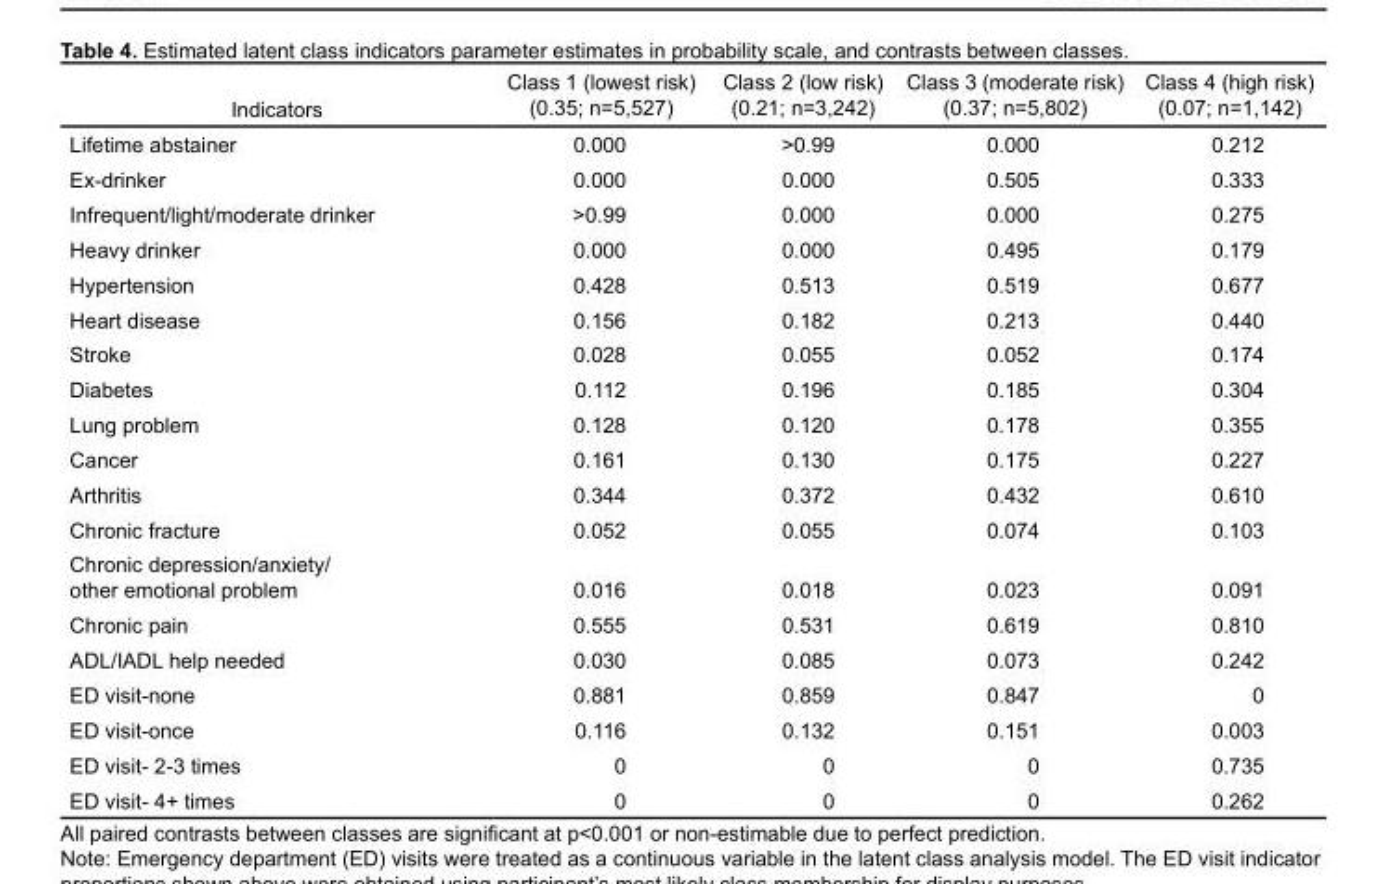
<table><thead><tr><td>Indicators</td><td>Class 1 (lowest risk) (0.35; n=5,527)</td><td>Class 2 (low risk) (0.21; n=3,242)</td><td>Class 3 (moderate risk) (0.37; n=5,802)</td><td>Class 4 (high risk) (0.07; n=1,142)</td></tr></thead><tbody><tr><td>Lifetime abstainer</td><td>0.000</td><td>&gt;0.99</td><td>0.000</td><td>0.212</td></tr><tr><td>Ex-drinker</td><td>0.000</td><td>0.000</td><td>0.505</td><td>0.333</td></tr><tr><td>Infrequent/light/moderate drinker</td><td>&gt;0.99</td><td>0.000</td><td>0.000</td><td>0.275</td></tr><tr><td>Heavy drinker</td><td>0.000</td><td>0.000</td><td>0.495</td><td>0.179</td></tr><tr><td>Hypertension</td><td>0.428</td><td>0.513</td><td>0.519</td><td>0.677</td></tr><tr><td>Heart disease</td><td>0.156</td><td>0.182</td><td>0.213</td><td>0.440</td></tr><tr><td>Stroke</td><td>0.028</td><td>0.055</td><td>0.052</td><td>0.174</td></tr><tr><td>Diabetes</td><td>0.112</td><td>0.196</td><td>0.185</td><td>0.304</td></tr><tr><td>Lung problem</td><td>0.128</td><td>0.120</td><td>0.178</td><td>0.355</td></tr><tr><td>Cancer</td><td>0.161</td><td>0.130</td><td>0.175</td><td>0.227</td></tr><tr><td>Arthritis</td><td>0.344</td><td>0.372</td><td>0.432</td><td>0.610</td></tr><tr><td>Chronic fracture</td><td>0.052</td><td>0.055</td><td>0.074</td><td>0.103</td></tr><tr><td>Chronic depression/anxiety/ other emotional problem</td><td>0.016</td><td>0.018</td><td>0.023</td><td>0.091</td></tr><tr><td>Chronic pain</td><td>0.555</td><td>0.531</td><td>0.619</td><td>0.810</td></tr><tr><td>ADL/IADL help needed</td><td>0.030</td><td>0.085</td><td>0.073</td><td>0.242</td></tr><tr><td>ED visit-none</td><td>0.881</td><td>0.859</td><td>0.847</td><td>0</td></tr><tr><td>ED visit-once</td><td>0.116</td><td>0.132</td><td>0.151</td><td>0.003</td></tr><tr><td>ED visit- 2-3 times</td><td>0</td><td>0</td><td>0</td><td>0.735</td></tr><tr><td>ED visit- 4+ times</td><td>0</td><td>0</td><td>0</td><td>0.262</td></tr></tbody></table>